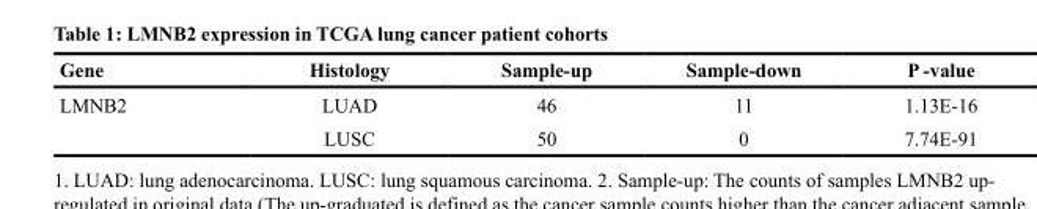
<table><thead><tr><td>Gene</td><td>Histology</td><td>Sample-up</td><td>Sample-down</td><td>P -value</td></tr></thead><tbody><tr><td rowspan="2">LMNB2</td><td>LUAD</td><td>46</td><td>11</td><td>1.13E-16</td></tr><tr><td>LUSC</td><td>50</td><td>0</td><td>7.74E-91</td></tr></tbody></table>